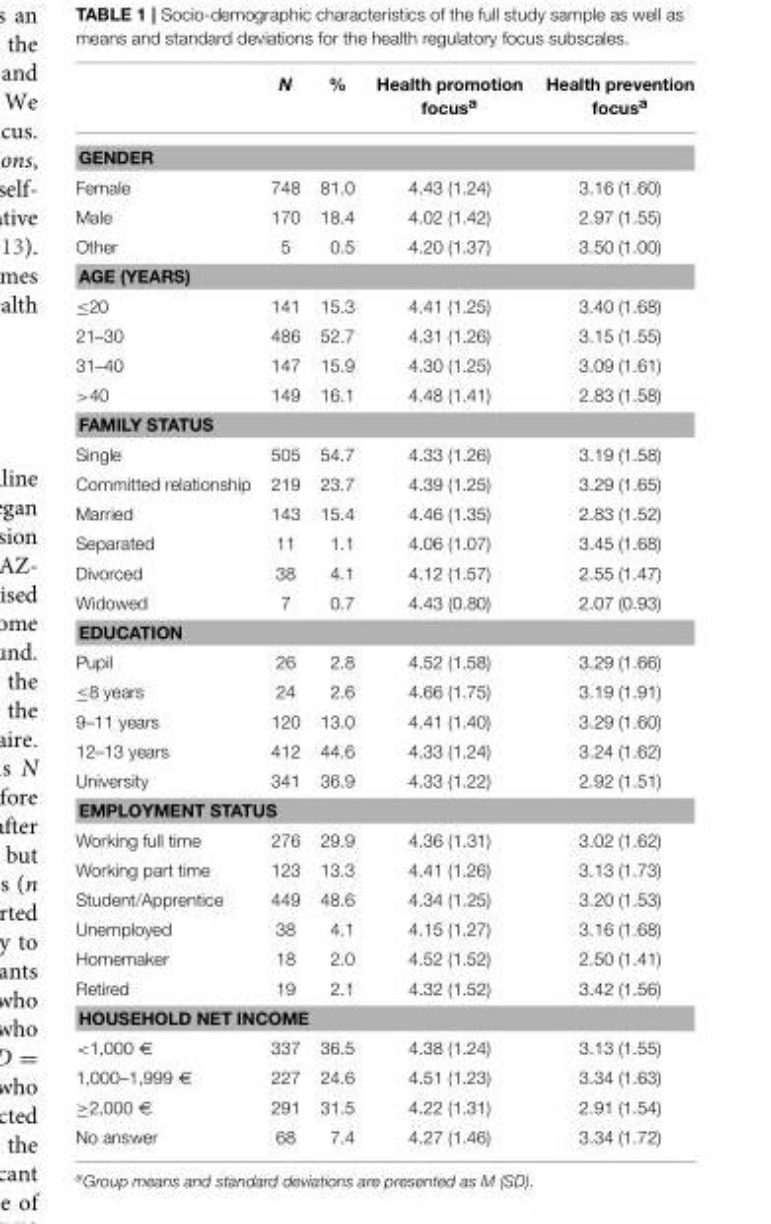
<table><thead><tr><td></td><td>N</td><td>%</td><td>Health promotion focus<sup>a</sup></td><td>Health prevention focus<sup>a</sup></td></tr></thead><tbody><tr><td colspan="5">GENDER</td></tr><tr><td>Female</td><td>748</td><td>81.0</td><td>4.43 (1.24)</td><td>3.16 (1.60)</td></tr><tr><td>Male</td><td>170</td><td>18.4</td><td>4.02 (1.42)</td><td>2.97 (1.55)</td></tr><tr><td>Other</td><td>5</td><td>0.5</td><td>4.20 (1.37)</td><td>3.50 (1.00)</td></tr><tr><td colspan="5">AGE (YEARS)</td></tr><tr><td>≤20</td><td>141</td><td>15.3</td><td>4.41 (1.25)</td><td>3.40 (1.68)</td></tr><tr><td>21–30</td><td>486</td><td>52.7</td><td>4.31 (1.26)</td><td>3.15 (1.55)</td></tr><tr><td>31–40</td><td>147</td><td>15.9</td><td>4.30 (1.25)</td><td>3.09 (1.61)</td></tr><tr><td>&gt;40</td><td>149</td><td>16.1</td><td>4.48 (1.41)</td><td>2.83 (1.58)</td></tr><tr><td colspan="5">FAMILY STATUS</td></tr><tr><td>Single</td><td>505</td><td>54.7</td><td>4.33 (1.26)</td><td>3.19 (1.58)</td></tr><tr><td>Committed relationship</td><td>219</td><td>23.7</td><td>4.39 (1.25)</td><td>3.29 (1.65)</td></tr><tr><td>Married</td><td>143</td><td>15.4</td><td>4.46 (1.35)</td><td>2.83 (1.52)</td></tr><tr><td>Separated</td><td>11</td><td>1.1</td><td>4.06 (1.07)</td><td>3.45 (1.68)</td></tr><tr><td>Divorced</td><td>38</td><td>4.1</td><td>4.12 (1.57)</td><td>2.55 (1.47)</td></tr><tr><td>Widowed</td><td>7</td><td>0.7</td><td>4.43 (0.80)</td><td>2.07 (0.93)</td></tr><tr><td colspan="5">EDUCATION</td></tr><tr><td>Pupil</td><td>26</td><td>2.8</td><td>4.52 (1.58)</td><td>3.29 (1.66)</td></tr><tr><td>≤8 years</td><td>24</td><td>2.6</td><td>4.66 (1.75)</td><td>3.19 (1.91)</td></tr><tr><td>9–11 years</td><td>120</td><td>13.0</td><td>4.41 (1.40)</td><td>3.29 (1.60)</td></tr><tr><td>12–13 years</td><td>412</td><td>44.6</td><td>4.33 (1.24)</td><td>3.24 (1.62)</td></tr><tr><td>University</td><td>341</td><td>36.9</td><td>4.33 (1.22)</td><td>2.92 (1.51)</td></tr><tr><td colspan="5">EMPLOYMENT STATUS</td></tr><tr><td>Working full time</td><td>276</td><td>29.9</td><td>4.36 (1.31)</td><td>3.02 (1.62)</td></tr><tr><td>Working part time</td><td>123</td><td>13.3</td><td>4.41 (1.26)</td><td>3.13 (1.73)</td></tr><tr><td>Student/Apprentice</td><td>449</td><td>48.6</td><td>4.34 (1.25)</td><td>3.20 (1.53)</td></tr><tr><td>Unemployed</td><td>38</td><td>4.1</td><td>4.15 (1.27)</td><td>3.16 (1.68)</td></tr><tr><td>Homemaker</td><td>18</td><td>2.0</td><td>4.52 (1.52)</td><td>2.50 (1.41)</td></tr><tr><td>Retired</td><td>19</td><td>2.1</td><td>4.32 (1.52)</td><td>3.42 (1.56)</td></tr><tr><td colspan="5">HOUSEHOLD NET INCOME</td></tr><tr><td>&lt;1,000 €</td><td>337</td><td>36.5</td><td>4.38 (1.24)</td><td>3.13 (1.55)</td></tr><tr><td>1,000–1,999 €</td><td>227</td><td>24.6</td><td>4.51 (1.23)</td><td>3.34 (1.63)</td></tr><tr><td>≥2,000 €</td><td>291</td><td>31.5</td><td>4.22 (1.31)</td><td>2.91 (1.54)</td></tr><tr><td>No answer</td><td>68</td><td>7.4</td><td>4.27 (1.46)</td><td>3.34 (1.72)</td></tr></tbody></table>